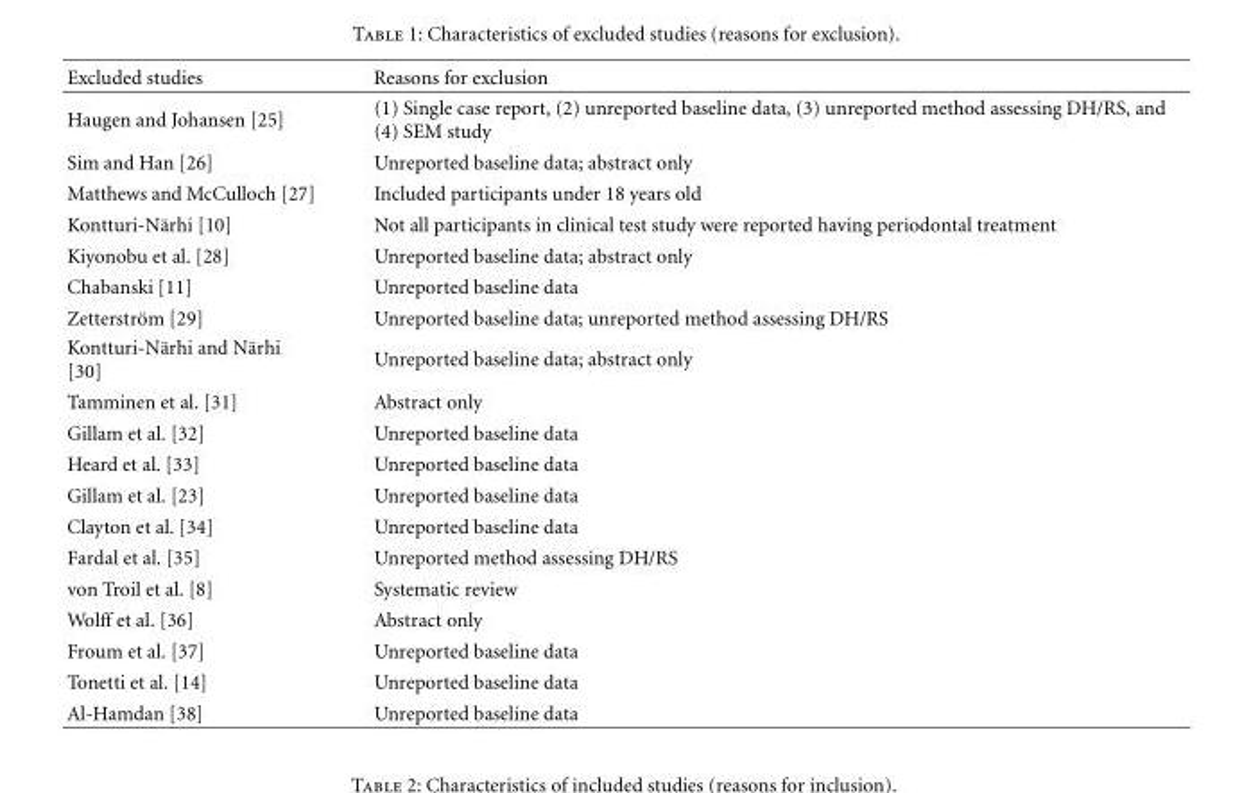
<table><thead><tr><td>Excluded studies</td><td>Reasons for exclusion</td></tr></thead><tbody><tr><td>Haugen and Johansen [25]</td><td>(1) Single case report, (2) unreported baseline data, (3) unreported method assessing DH/RS, and (4) SEM study</td></tr><tr><td>Sim and Han [26]</td><td>Unreported baseline data; abstract only</td></tr><tr><td>Matthews and McCulloch [27]</td><td>Included participants under 18 years old</td></tr><tr><td>Kontturi-N¨arhi [10]</td><td>Not all participants in clinical test study were reported having periodontal treatment</td></tr><tr><td>Kiyonobu et al. [28]</td><td>Unreported baseline data; abstract only</td></tr><tr><td>Chabanski [11]</td><td>Unreported baseline data</td></tr><tr><td>Zetterstr¨om [29]</td><td>Unreported baseline data; unreported method assessing DH/RS</td></tr><tr><td>Kontturi-N¨arhi and N¨arhi [30]</td><td>Unreported baseline data; abstract only</td></tr><tr><td>Tamminen et al. [31]</td><td>Abstract only</td></tr><tr><td>Gillam et al. [32]</td><td>Unreported baseline data</td></tr><tr><td>Heard et al. [33]</td><td>Unreported baseline data</td></tr><tr><td>Gillam et al. [23]</td><td>Unreported baseline data</td></tr><tr><td>Clayton et al. [34]</td><td>Unreported baseline data</td></tr><tr><td>Fardal et al. [35]</td><td>Unreported method assessing DH/RS</td></tr><tr><td>von Troil et al. [8]</td><td>Systematic review</td></tr><tr><td>Wolff et al. [36]</td><td>Abstract only</td></tr><tr><td>Froum et al. [37]</td><td>Unreported baseline data</td></tr><tr><td>Tonetti et al. [14]</td><td>Unreported baseline data</td></tr><tr><td>Al-Hamdan [38]</td><td>Unreported baseline data</td></tr></tbody></table>